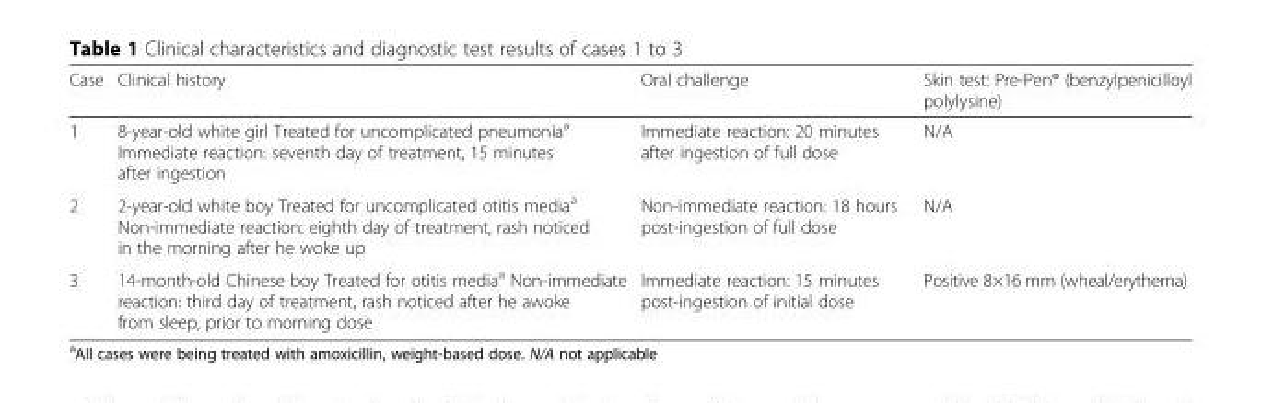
<table><thead><tr><td>Case</td><td>Clinical history</td><td>Oral challenge</td><td>Skin test: Pre-Pen® (benzylpenicilloyl polylysine)</td></tr></thead><tbody><tr><td>1</td><td>8-year-old white girl Treated for uncomplicated pneumonia<sup>a</sup> Immediate reaction: seventh day of treatment, 15 minutes after ingestion</td><td>Immediate reaction: 20 minutes after ingestion of full dose</td><td>N/A</td></tr><tr><td>2</td><td>2-year-old white boy Treated for uncomplicated otitis media<sup>a</sup> Non-immediate reaction: eighth day of treatment, rash noticed in the morning after he woke up</td><td>Non-immediate reaction: 18 hours post-ingestion of full dose</td><td>N/A</td></tr><tr><td>3</td><td>14-month-old Chinese boy Treated for otitis media<sup>a</sup> Non-immediate reaction: third day of treatment, rash noticed after he awoke from sleep, prior to morning dose</td><td>Immediate reaction: 15 minutes post-ingestion of initial dose</td><td>Positive 8×16 mm (wheal/erythema)</td></tr></tbody></table>